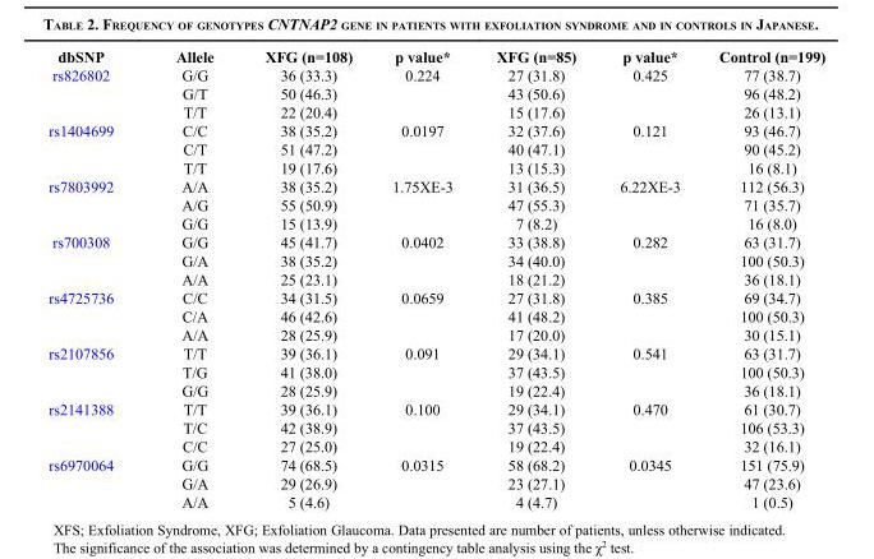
<table><thead><tr><td>dbSNP</td><td>Allele</td><td>XFG (n=108)</td><td>p value*</td><td>XFG (n=85)</td><td>p value*</td><td>Control (n=199)</td></tr></thead><tbody><tr><td rowspan="3">rs826802</td><td>G/G</td><td>36 (33.3)</td><td>0.224</td><td>27 (31.8)</td><td>0.425</td><td>77 (38.7)</td></tr><tr><td>G/T</td><td>50 (46.3)</td><td></td><td>43 (50.6)</td><td></td><td>96 (48.2)</td></tr><tr><td>T/T</td><td>22 (20.4)</td><td></td><td>15 (17.6)</td><td></td><td>26 (13.1)</td></tr><tr><td rowspan="3">rs1404699</td><td>C/C</td><td>38 (35.2)</td><td>0.0197</td><td>32 (37.6)</td><td>0.121</td><td>93 (46.7)</td></tr><tr><td>C/T</td><td>51 (47.2)</td><td></td><td>40 (47.1)</td><td></td><td>90 (45.2)</td></tr><tr><td>T/T</td><td>19 (17.6)</td><td></td><td>13 (15.3)</td><td></td><td>16 (8.1)</td></tr><tr><td rowspan="3">rs7803992</td><td>A/A</td><td>38 (35.2)</td><td>1.75XE-3</td><td>31 (36.5)</td><td>6.22XE-3</td><td>112 (56.3)</td></tr><tr><td>A/G</td><td>55 (50.9)</td><td></td><td>47 (55.3)</td><td></td><td>71 (35.7)</td></tr><tr><td>G/G</td><td>15 (13.9)</td><td></td><td>7 (8.2)</td><td></td><td>16 (8.0)</td></tr><tr><td rowspan="3">rs700308</td><td>G/G</td><td>45 (41.7)</td><td>0.0402</td><td>33 (38.8)</td><td>0.282</td><td>63 (31.7)</td></tr><tr><td>G/A</td><td>38 (35.2)</td><td></td><td>34 (40.0)</td><td></td><td>100 (50.3)</td></tr><tr><td>A/A</td><td>25 (23.1)</td><td></td><td>18 (21.2)</td><td></td><td>36 (18.1)</td></tr><tr><td rowspan="3">rs4725736</td><td>C/C</td><td>34 (31.5)</td><td>0.0659</td><td>27 (31.8)</td><td>0.385</td><td>69 (34.7)</td></tr><tr><td>C/A</td><td>46 (42.6)</td><td></td><td>41 (48.2)</td><td></td><td>100 (50.3)</td></tr><tr><td>A/A</td><td>28 (25.9)</td><td></td><td>17 (20.0)</td><td></td><td>30 (15.1)</td></tr><tr><td rowspan="3">rs2107856</td><td>T/T</td><td>39 (36.1)</td><td>0.091</td><td>29 (34.1)</td><td>0.541</td><td>63 (31.7)</td></tr><tr><td>T/G</td><td>41 (38.0)</td><td></td><td>37 (43.5)</td><td></td><td>100 (50.3)</td></tr><tr><td>G/G</td><td>28 (25.9)</td><td></td><td>19 (22.4)</td><td></td><td>36 (18.1)</td></tr><tr><td rowspan="3">rs2141388</td><td>T/T</td><td>39 (36.1)</td><td>0.100</td><td>29 (34.1)</td><td>0.470</td><td>61 (30.7)</td></tr><tr><td>T/C</td><td>42 (38.9)</td><td></td><td>37 (43.5)</td><td></td><td>106 (53.3)</td></tr><tr><td>C/C</td><td>27 (25.0)</td><td></td><td>19 (22.4)</td><td></td><td>32 (16.1)</td></tr><tr><td rowspan="3">rs6970064</td><td>G/G</td><td>74 (68.5)</td><td>0.0315</td><td>58 (68.2)</td><td>0.0345</td><td>151 (75.9)</td></tr><tr><td>G/A</td><td>29 (26.9)</td><td></td><td>23 (27.1)</td><td></td><td>47 (23.6)</td></tr><tr><td>A/A</td><td>5 (4.6)</td><td></td><td>4 (4.7)</td><td></td><td>1 (0.5)</td></tr></tbody></table>